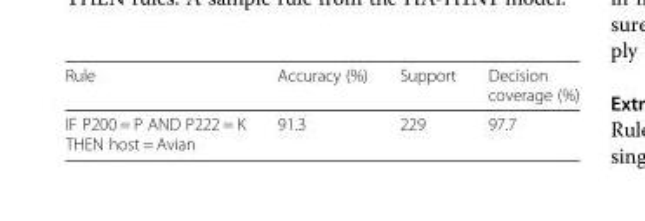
<table><thead><tr><td>Rule</td><td>Accuracy (%)</td><td>Support</td><td>Decision coverage (%)</td></tr></thead><tbody><tr><td>IF P200 = P AND P222 = K THEN host = Avian</td><td>91.3</td><td>229</td><td>97.7</td></tr></tbody></table>